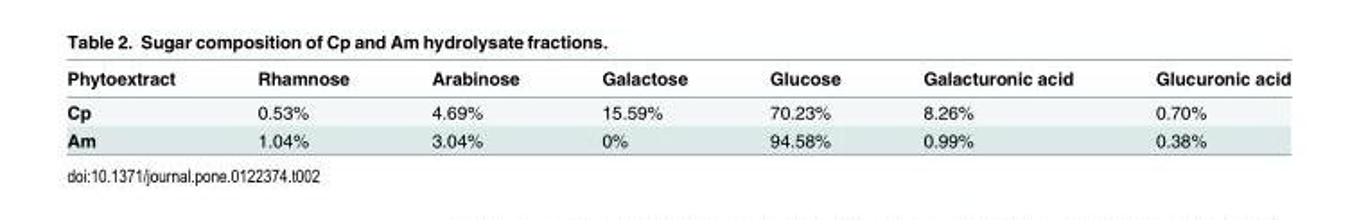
<table><thead><tr><td>Phytoextract</td><td>Rhamnose</td><td>Arabinose</td><td>Galactose</td><td>Glucose</td><td>Galacturonic acid</td><td>Glucuronic acid</td></tr></thead><tbody><tr><td>Cp</td><td>0.53%</td><td>4.69%</td><td>15.59%</td><td>70.23%</td><td>8.26%</td><td>0.70%</td></tr><tr><td>Am</td><td>1.04%</td><td>3.04%</td><td>0%</td><td>94.58%</td><td>0.99%</td><td>0.38%</td></tr></tbody></table>